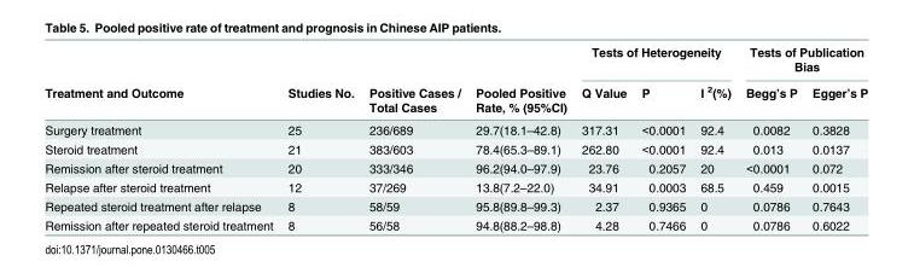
<table><thead><tr><td rowspan="2">Treatment and Outcome</td><td rowspan="2">Studies No.</td><td rowspan="2">Positive Cases / Total Cases</td><td rowspan="2">Pooled Positive Rate, % (95%CI)</td><td colspan="3">Tests of Heterogeneity</td><td colspan="2">Tests of Publication Bias</td></tr><tr><td>Q Value</td><td>P</td><td>I <sup>2</sup>(%)</td><td>Begg’s P</td><td>Egger’s P</td></tr></thead><tbody><tr><td>Surgery treatment</td><td>25</td><td>236/689</td><td>29.7(18.1–42.8)</td><td>317.31</td><td>&lt;0.0001</td><td>92.4</td><td>0.0082</td><td>0.3828</td></tr><tr><td>Steroid treatment</td><td>21</td><td>383/603</td><td>78.4(65.3–89.1)</td><td>262.80</td><td>&lt;0.0001</td><td>92.4</td><td>0.013</td><td>0.0137</td></tr><tr><td>Remission after steroid treatment</td><td>20</td><td>333/346</td><td>96.2(94.0–97.9)</td><td>23.76</td><td>0.2057</td><td>20</td><td>&lt;0.0001</td><td>0.072</td></tr><tr><td>Relapse after steroid treatment</td><td>12</td><td>37/269</td><td>13.8(7.2–22.0)</td><td>34.91</td><td>0.0003</td><td>68.5</td><td>0.459</td><td>0.0015</td></tr><tr><td>Repeated steroid treatment after relapse</td><td>8</td><td>58/59</td><td>95.8(89.8–99.3)</td><td>2.37</td><td>0.9365</td><td>0</td><td>0.0786</td><td>0.7643</td></tr><tr><td>Remission after repeated steroid treatment</td><td>8</td><td>56/58</td><td>94.8(88.2–98.8)</td><td>4.28</td><td>0.7466</td><td>0</td><td>0.0786</td><td>0.6022</td></tr></tbody></table>